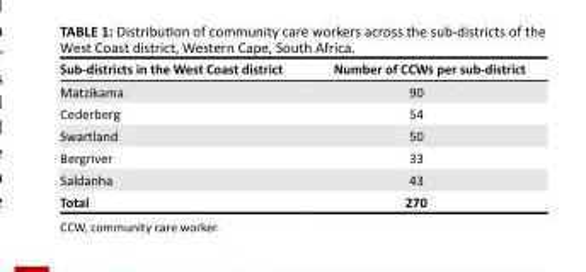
<table><thead><tr><td>Sub-districts in the West Coast district</td><td>Number of CCWs per sub-district</td></tr></thead><tbody><tr><td>Matzikama</td><td>90</td></tr><tr><td>Cederberg</td><td>54</td></tr><tr><td>Swartland</td><td>50</td></tr><tr><td>Bergriver</td><td>33</td></tr><tr><td>Saldanha</td><td>43</td></tr><tr><td>Total</td><td>270</td></tr></tbody></table>